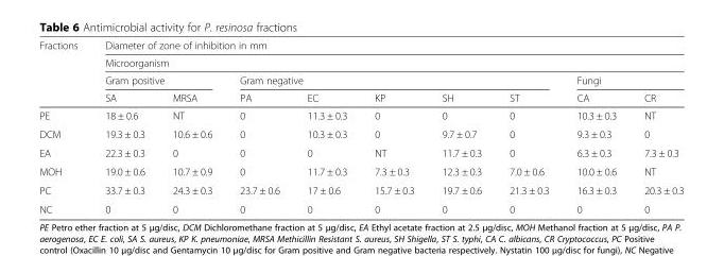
<table><thead><tr><td rowspan="4">Fractions</td><td rowspan="2" colspan="9">Diameter of zone of inhibition in mm Microorganism</td></tr><tr></tr><tr><td colspan="2">Gram positive</td><td colspan="5">Gram negative</td><td colspan="2">Fungi</td></tr><tr><td>SA</td><td>MRSA</td><td>PA</td><td>EC</td><td>KP</td><td>SH</td><td>ST</td><td>CA</td><td>CR</td></tr></thead><tbody><tr><td>PE</td><td>18 ± 0.6</td><td>NT</td><td>0</td><td>11.3 ± 0.3</td><td>0</td><td>0</td><td>0</td><td>10.3 ± 0.3</td><td>NT</td></tr><tr><td>DCM</td><td>19.3 ± 0.3</td><td>10.6 ± 0.6</td><td>0</td><td>10.3 ± 0.3</td><td>0</td><td>9.7 ± 0.7</td><td>0</td><td>9.3 ± 0.3</td><td>0</td></tr><tr><td>EA</td><td>22.3 ± 0.3</td><td>0</td><td>0</td><td>0</td><td>NT</td><td>11.7 ± 0.3</td><td>0</td><td>6.3 ± 0.3</td><td>7.3 ± 0.3</td></tr><tr><td>MOH</td><td>19.0 ± 0.6</td><td>10.7 ± 0.9</td><td>0</td><td>11.7 ± 0.3</td><td>7.3 ± 0.3</td><td>12.3 ± 0.3</td><td>7.0 ± 0.6</td><td>10.0 ± 0.6</td><td>NT</td></tr><tr><td>PC</td><td>33.7 ± 0.3</td><td>24.3 ± 0.3</td><td>23.7 ± 0.6</td><td>17 ± 0.6</td><td>15.7 ± 0.3</td><td>19.7 ± 0.6</td><td>21.3 ± 0.3</td><td>16.3 ± 0.3</td><td>20.3 ± 0.3</td></tr><tr><td>NC</td><td>0</td><td>0</td><td>0</td><td>0</td><td>0</td><td>0</td><td>0</td><td>0</td><td>0</td></tr></tbody></table>